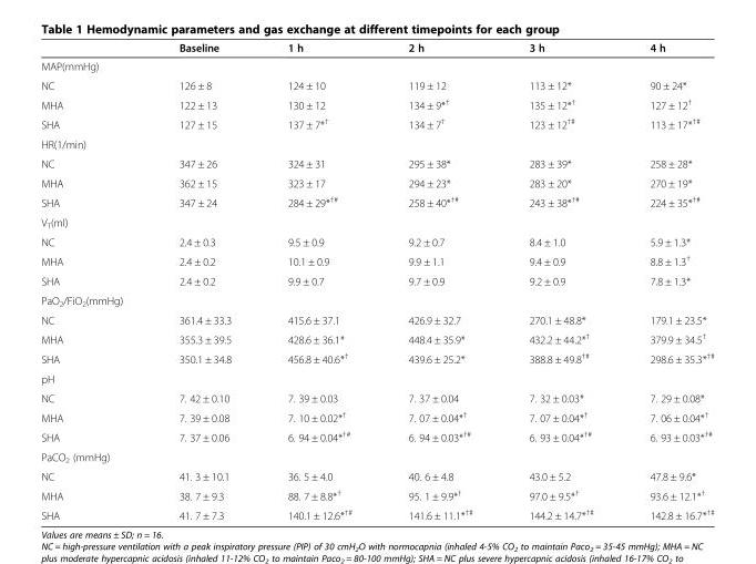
<table><thead><tr><td></td><td>Baseline</td><td>1 h</td><td>2 h</td><td>3 h</td><td>4 h</td></tr></thead><tbody><tr><td colspan="6">MAP(mmHg)</td></tr><tr><td>NC</td><td>126 ± 8</td><td>124 ± 10</td><td>119 ± 12</td><td>113 ± 12*</td><td>90 ± 24*</td></tr><tr><td>MHA</td><td>122 ± 13</td><td>130 ± 12</td><td>134 ± 9*<sup>†</sup></td><td>135 ± 12*<sup>†</sup></td><td>127 ± 12<sup>†</sup></td></tr><tr><td>SHA</td><td>127 ± 15</td><td>137 ± 7*<sup>†</sup></td><td>134 ± 7<sup>†</sup></td><td>123 ± 12<sup>†#</sup></td><td>113 ± 17*<sup>†#</sup></td></tr><tr><td colspan="6">HR(1/min)</td></tr><tr><td>NC</td><td>347 ± 26</td><td>324 ± 31</td><td>295 ± 38*</td><td>283 ± 39*</td><td>258 ± 28*</td></tr><tr><td>MHA</td><td>362 ± 15</td><td>323 ± 17</td><td>294 ± 23*</td><td>283 ± 20*</td><td>270 ± 19*</td></tr><tr><td>SHA</td><td>347 ± 24</td><td>284 ± 29*<sup>†#</sup></td><td>258 ± 40*<sup>†#</sup></td><td>243 ± 38*<sup>†#</sup></td><td>224 ± 35*<sup>†#</sup></td></tr><tr><td colspan="6">V<sub>T</sub>(ml)</td></tr><tr><td>NC</td><td>2.4 ± 0.3</td><td>9.5 ± 0.9</td><td>9.2 ± 0.7</td><td>8.4 ± 1.0</td><td>5.9 ± 1.3*</td></tr><tr><td>MHA</td><td>2.4 ± 0.2</td><td>10.1 ± 0.9</td><td>9.9 ± 1.1</td><td>9.4 ± 0.9</td><td>8.8 ± 1.3<sup>†</sup></td></tr><tr><td>SHA</td><td>2.4 ± 0.2</td><td>9.9 ± 0.7</td><td>9.7 ± 0.9</td><td>9.2 ± 0.9</td><td>7.8 ± 1.3*</td></tr><tr><td colspan="6">PaO<sub>2</sub>/FiO<sub>2</sub>(mmHg)</td></tr><tr><td>NC</td><td>361.4 ± 33.3</td><td>415.6 ± 37.1</td><td>426.9 ± 32.7</td><td>270.1 ± 48.8*</td><td>179.1 ± 23.5*</td></tr><tr><td>MHA</td><td>355.3 ± 39.5</td><td>428.6 ± 36.1*</td><td>448.4 ± 35.9*</td><td>432.2 ± 44.2*<sup>†</sup></td><td>379.9 ± 34.5<sup>†</sup></td></tr><tr><td>SHA</td><td>350.1 ± 34.8</td><td>456.8 ± 40.6*<sup>†</sup></td><td>439.6 ± 25.2*</td><td>388.8 ± 49.8<sup>†#</sup></td><td>298.6 ± 35.3*<sup>†#</sup></td></tr><tr><td colspan="6">pH</td></tr><tr><td>NC</td><td>7. 42 ± 0.10</td><td>7. 39 ± 0.03</td><td>7. 37 ± 0.04</td><td>7. 32 ± 0.03*</td><td>7. 29 ± 0.08*</td></tr><tr><td>MHA</td><td>7. 39 ± 0.08</td><td>7. 10 ± 0.02*<sup>†</sup></td><td>7. 07 ± 0.04*<sup>†</sup></td><td>7. 07 ± 0.04*<sup>†</sup></td><td>7. 06 ± 0.04*<sup>†</sup></td></tr><tr><td>SHA</td><td>7. 37 ± 0.06</td><td>6. 94 ± 0.04*<sup>†#</sup></td><td>6. 94 ± 0.03*<sup>†#</sup></td><td>6. 93 ± 0.04*<sup>†#</sup></td><td>6. 93 ± 0.03*<sup>†#</sup></td></tr><tr><td colspan="6">PaCO<sub>2</sub> (mmHg)</td></tr><tr><td>NC</td><td>41. 3 ± 10.1</td><td>36. 5 ± 4.0</td><td>40. 6 ± 4.8</td><td>43.0 ± 5.2</td><td>47.8 ± 9.6*</td></tr><tr><td>MHA</td><td>38. 7 ± 9.3</td><td>88. 7 ± 8.8*<sup>†</sup></td><td>95. 1 ± 9.9*<sup>†</sup></td><td>97.0 ± 9.5*<sup>†</sup></td><td>93.6 ± 12.1*<sup>†</sup></td></tr><tr><td>SHA</td><td>41. 7 ± 7.3</td><td>140.1 ± 12.6*<sup>†#</sup></td><td>141.6 ± 11.1*<sup>†#</sup></td><td>144.2 ± 14.7*<sup>†#</sup></td><td>142.8 ± 16.7*<sup>†#</sup></td></tr></tbody></table>